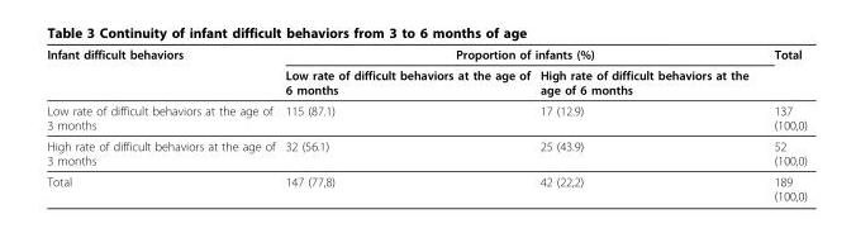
<table><thead><tr><td rowspan="2">Infant difficult behaviors</td><td colspan="2">Proportion of infants (%)</td><td rowspan="2">Total</td></tr><tr><td>Low rate of difficult behaviors at the age of 6 months</td><td>High rate of difficult behaviors at the age of 6 months</td></tr></thead><tbody><tr><td>Low rate of difficult behaviors at the age of 3 months</td><td>115 (87.1)</td><td>17 (12.9)</td><td>137 (100,0)</td></tr><tr><td>High rate of difficult behaviors at the age of 3 months</td><td>32 (56.1)</td><td>25 (43.9)</td><td>52 (100,0)</td></tr><tr><td>Total</td><td>147 (77,8)</td><td>42 (22,2)</td><td>189 (100,0)</td></tr></tbody></table>